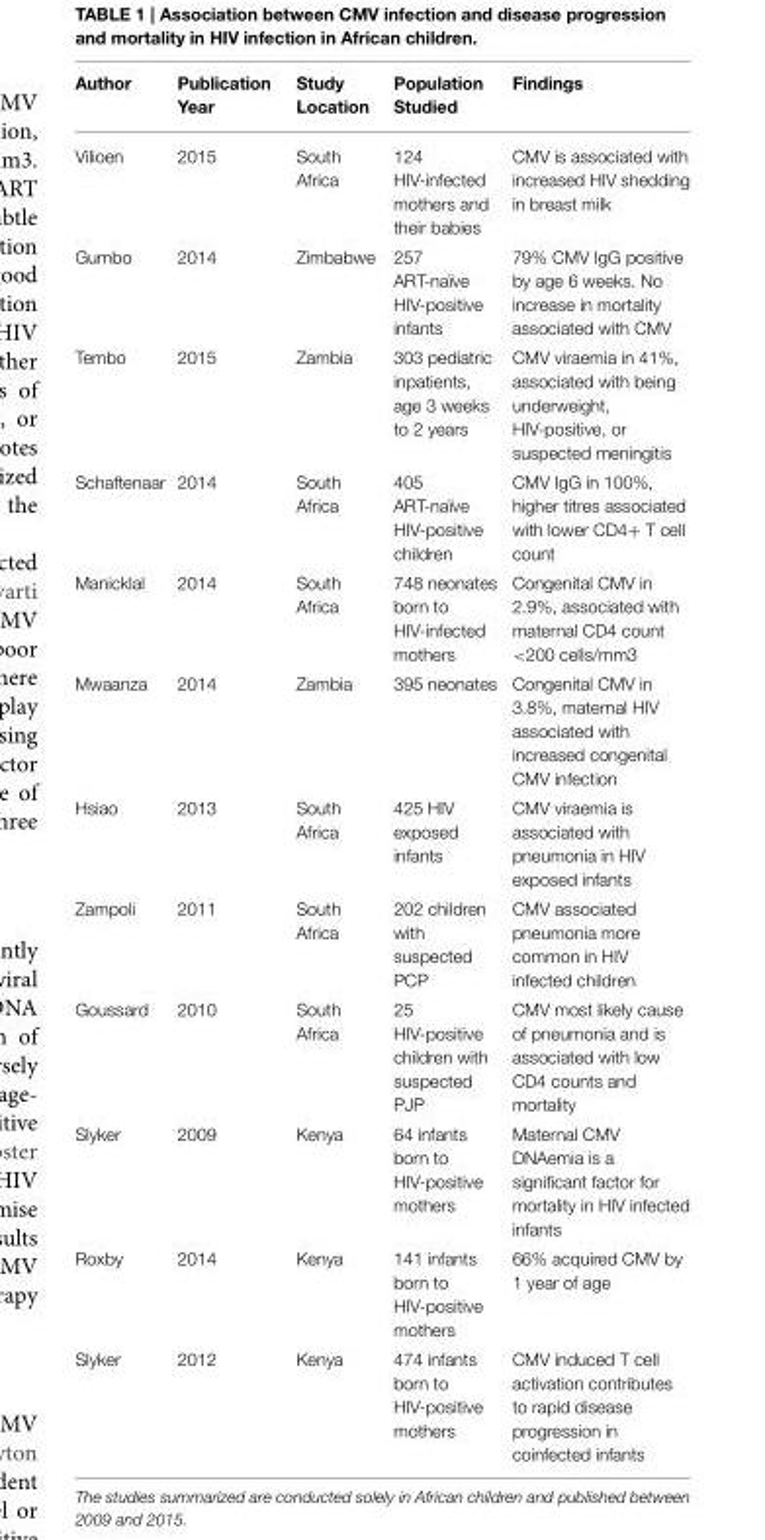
<table><thead><tr><td>Author</td><td>Publication Year</td><td>Study Location</td><td>Population Studied</td><td>Findings</td></tr></thead><tbody><tr><td>Vilioen</td><td>2015</td><td>South Africa</td><td>124 HIV-infected mothers and their babies</td><td>CMV is associated with increased HIV shedding in breast milk</td></tr><tr><td>Gumbo</td><td>2014</td><td>Zimbabwe</td><td>257 ART-naïve HIV-positive infants</td><td>79% CMV IgG positive by age 6 weeks. No increase in mortality associated with CMV</td></tr><tr><td>Tembo</td><td>2015</td><td>Zambia</td><td>303 pediatric inpatients, age 3 weeks to 2 years</td><td>CMV viraemia in 41%, associated with being underweight, HIV-positive, or suspected meningitis</td></tr><tr><td>Schaftenaar</td><td>2014</td><td>South Africa</td><td>405 ART-naïve HIV-positive children</td><td>CMV IgG in 100%, higher titres associated with lower CD4+ T cell count</td></tr><tr><td>Manicklal</td><td>2014</td><td>South Africa</td><td>748 neonates born to HIV-infected mothers</td><td>Congenital CMV in 2.9%, associated with maternal CD4 count &lt;200 cells/mm3</td></tr><tr><td>Mwaanza</td><td>2014</td><td>Zambia</td><td>395 neonates</td><td>Congenital CMV in 3.8%, maternal HIV associated with increased congenital CMV infection</td></tr><tr><td>Hsiao</td><td>2013</td><td>South Africa</td><td>425 HIV exposed infants</td><td>CMV viraemia is associated with pneumonia in HIV exposed infants</td></tr><tr><td>Zampoli</td><td>2011</td><td>South Africa</td><td>202 children with suspected PCP</td><td>CMV associated pneumonia more common in HIV infected children</td></tr><tr><td>Goussard</td><td>2010</td><td>South Africa</td><td>25 HIV-positive children with suspected PJP</td><td>CMV most likely cause of pneumonia and is associated with low CD4 counts and mortality</td></tr><tr><td>Slyker</td><td>2009</td><td>Kenya</td><td>64 infants born to HIV-positive mothers</td><td>Maternal CMV DNAemia is a significant factor for mortality in HIV infected infants</td></tr><tr><td>Roxby</td><td>2014</td><td>Kenya</td><td>141 infants born to HIV-positive mothers</td><td>66% acquired CMV by 1 year of age</td></tr><tr><td>Slyker</td><td>2012</td><td>Kenya</td><td>474 infants born to HIV-positive mothers</td><td>CMV induced T cell activation contributes to rapid disease progression in coinfected infants</td></tr></tbody></table>